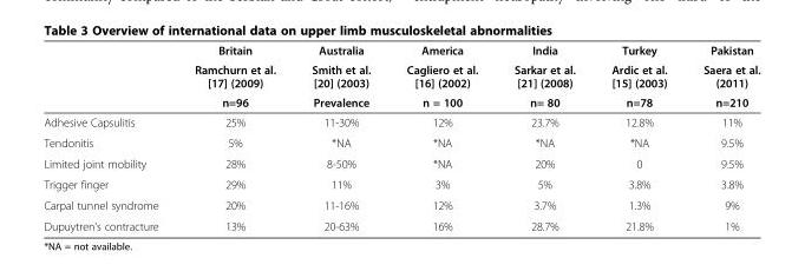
<table><thead><tr><td rowspan="3"></td><td rowspan="3">Britain Ramchurn et al. [17] (2009) n=96</td><td rowspan="3">Australia Smith et al. [20] (2003) Prevalence</td><td rowspan="3">America Cagliero et al. [16] (2002) n = 100</td><td rowspan="3">India Sarkar et al. [21] (2008) n= 80</td><td rowspan="3">Turkey Ardic et al. [15] (2003) n=78</td><td rowspan="3">Pakistan Saera et al. (2011) n=210</td></tr><tr></tr><tr></tr></thead><tbody><tr><td>Adhesive Capsulitis</td><td>25%</td><td>11-30%</td><td>12%</td><td>23.7%</td><td>12.8%</td><td>11%</td></tr><tr><td>Tendonitis</td><td>5%</td><td>*NA</td><td>*NA</td><td>*NA</td><td>*NA</td><td>9.5%</td></tr><tr><td>Limited joint mobility</td><td>28%</td><td>8-50%</td><td>*NA</td><td>20%</td><td>0</td><td>9.5%</td></tr><tr><td>Trigger finger</td><td>29%</td><td>11%</td><td>3%</td><td>5%</td><td>3.8%</td><td>3.8%</td></tr><tr><td>Carpal tunnel syndrome</td><td>20%</td><td>11-16%</td><td>12%</td><td>3.7%</td><td>1.3%</td><td>9%</td></tr><tr><td>Dupuytren’s contracture</td><td>13%</td><td>20-63%</td><td>16%</td><td>28.7%</td><td>21.8%</td><td>1%</td></tr></tbody></table>